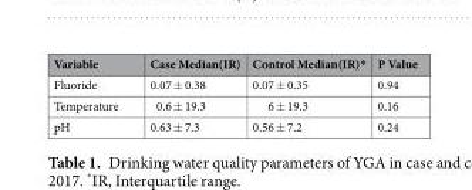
<table><thead><tr><td>Variable</td><td>Case Median(IR)</td><td>Control Median(IR)*</td><td>P Value</td></tr></thead><tbody><tr><td>Fluoride</td><td>0.07 ± 0.38</td><td>0.07 ± 0.35</td><td>0.94</td></tr><tr><td>Temperature</td><td>0.6 ± 19.3</td><td>6 ± 19.3</td><td>0.16</td></tr><tr><td>pH</td><td>0.63 ± 7.3</td><td>0.56 ± 7.2</td><td>0.24</td></tr></tbody></table>